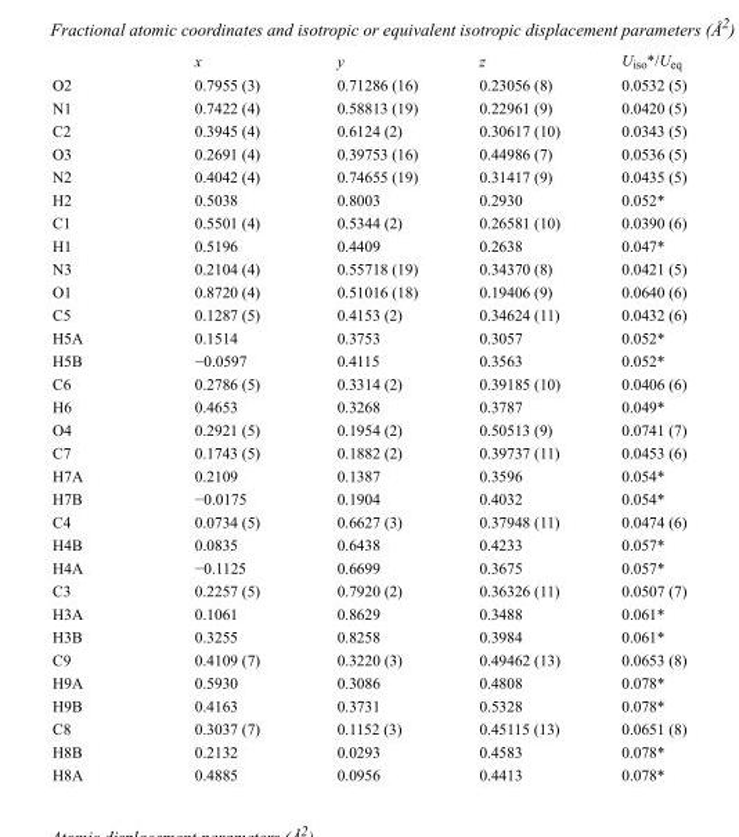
<table><thead><tr><td></td><td>x</td><td>y</td><td>z</td><td>U<sub>iso</sub>*/U<sub>eq</sub></td></tr></thead><tbody><tr><td>O2</td><td>0.7955 (3)</td><td>0.71286 (16)</td><td>0.23056 (8)</td><td>0.0532 (5)</td></tr><tr><td>N1</td><td>0.7422 (4)</td><td>0.58813 (19)</td><td>0.22961 (9)</td><td>0.0420 (5)</td></tr><tr><td>C2</td><td>0.3945 (4)</td><td>0.6124 (2)</td><td>0.30617 (10)</td><td>0.0343 (5)</td></tr><tr><td>O3</td><td>0.2691 (4)</td><td>0.39753 (16)</td><td>0.44986 (7)</td><td>0.0536 (5)</td></tr><tr><td>N2</td><td>0.4042 (4)</td><td>0.74655 (19)</td><td>0.31417 (9)</td><td>0.0435 (5)</td></tr><tr><td>H2</td><td>0.5038</td><td>0.8003</td><td>0.2930</td><td>0.052*</td></tr><tr><td>C1</td><td>0.5501 (4)</td><td>0.5344 (2)</td><td>0.26581 (10)</td><td>0.0390 (6)</td></tr><tr><td>H1</td><td>0.5196</td><td>0.4409</td><td>0.2638</td><td>0.047*</td></tr><tr><td>N3</td><td>0.2104 (4)</td><td>0.55718 (19)</td><td>0.34370 (8)</td><td>0.0421 (5)</td></tr><tr><td>O1</td><td>0.8720 (4)</td><td>0.51016 (18)</td><td>0.19406 (9)</td><td>0.0640 (6)</td></tr><tr><td>C5</td><td>0.1287 (5)</td><td>0.4153 (2)</td><td>0.34624 (11)</td><td>0.0432 (6)</td></tr><tr><td>H5A</td><td>0.1514</td><td>0.3753</td><td>0.3057</td><td>0.052*</td></tr><tr><td>H5B</td><td>−0.0597</td><td>0.4115</td><td>0.3563</td><td>0.052*</td></tr><tr><td>C6</td><td>0.2786 (5)</td><td>0.3314 (2)</td><td>0.39185 (10)</td><td>0.0406 (6)</td></tr><tr><td>H6</td><td>0.4653</td><td>0.3268</td><td>0.3787</td><td>0.049*</td></tr><tr><td>O4</td><td>0.2921 (5)</td><td>0.1954 (2)</td><td>0.50513 (9)</td><td>0.0741 (7)</td></tr><tr><td>C7</td><td>0.1743 (5)</td><td>0.1882 (2)</td><td>0.39737 (11)</td><td>0.0453 (6)</td></tr><tr><td>H7A</td><td>0.2109</td><td>0.1387</td><td>0.3596</td><td>0.054*</td></tr><tr><td>H7B</td><td>−0.0175</td><td>0.1904</td><td>0.4032</td><td>0.054*</td></tr><tr><td>C4</td><td>0.0734 (5)</td><td>0.6627 (3)</td><td>0.37948 (11)</td><td>0.0474 (6)</td></tr><tr><td>H4B</td><td>0.0835</td><td>0.6438</td><td>0.4233</td><td>0.057*</td></tr><tr><td>H4A</td><td>−0.1125</td><td>0.6699</td><td>0.3675</td><td>0.057*</td></tr><tr><td>C3</td><td>0.2257 (5)</td><td>0.7920 (2)</td><td>0.36326 (11)</td><td>0.0507 (7)</td></tr><tr><td>H3A</td><td>0.1061</td><td>0.8629</td><td>0.3488</td><td>0.061*</td></tr><tr><td>H3B</td><td>0.3255</td><td>0.8258</td><td>0.3984</td><td>0.061*</td></tr><tr><td>C9</td><td>0.4109 (7)</td><td>0.3220 (3)</td><td>0.49462 (13)</td><td>0.0653 (8)</td></tr><tr><td>H9A</td><td>0.5930</td><td>0.3086</td><td>0.4808</td><td>0.078*</td></tr><tr><td>H9B</td><td>0.4163</td><td>0.3731</td><td>0.5328</td><td>0.078*</td></tr><tr><td>C8</td><td>0.3037 (7)</td><td>0.1152 (3)</td><td>0.45115 (13)</td><td>0.0651 (8)</td></tr><tr><td>H8B</td><td>0.2132</td><td>0.0293</td><td>0.4583</td><td>0.078*</td></tr><tr><td>H8A</td><td>0.4885</td><td>0.0956</td><td>0.4413</td><td>0.078*</td></tr></tbody></table>